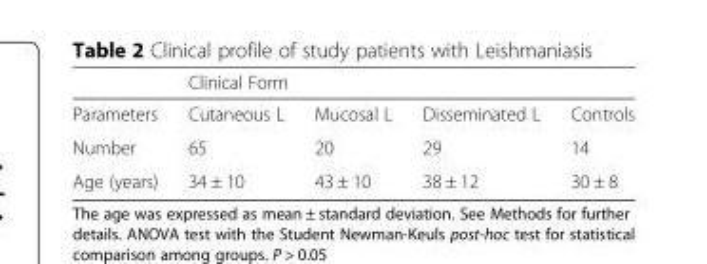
<table><thead><tr><td rowspan="2">Parameters</td><td colspan="4">Clinical Form</td></tr><tr><td>Cutaneous L</td><td>Mucosal L</td><td>Disseminated L</td><td>Controls</td></tr></thead><tbody><tr><td>Number</td><td>65</td><td>20</td><td>29</td><td>14</td></tr><tr><td>Age (years)</td><td>34 ± 10</td><td>43 ± 10</td><td>38 ± 12</td><td>30 ± 8</td></tr></tbody></table>